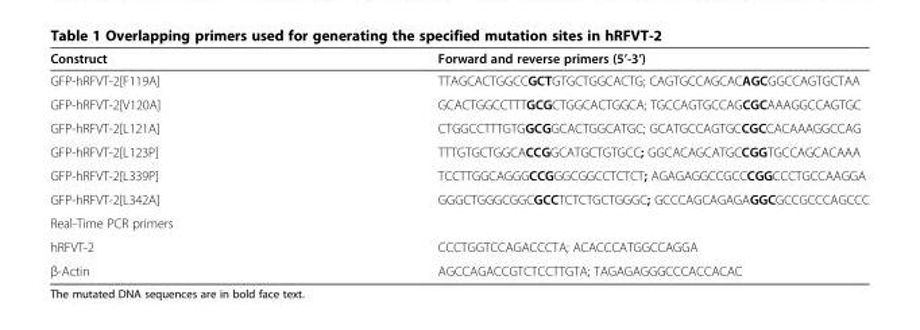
<table><thead><tr><td>Construct</td><td>Forward and reverse primers (5’-3’)</td></tr></thead><tbody><tr><td>GFP-hRFVT-2[F119A]</td><td>TTAGCACTGGCCGCTGTGCTGGCACTG; CAGTGCCAGCACAGCGGCCAGTGCTAA</td></tr><tr><td>GFP-hRFVT-2[V120A]</td><td>GCACTGGCCTTTGCGCTGGCACTGGCA; TGCCAGTGCCAGCGCAAAGGCCAGTGC</td></tr><tr><td>GFP-hRFVT-2[L121A]</td><td>CTGGCCTTTGTGGCGGCACTGGCATGC; GCATGCCAGTGCCGCCACAAAGGCCAG</td></tr><tr><td>GFP-hRFVT-2[L123P]</td><td>TTTGTGCTGGCACCGGCATGCTGTGCC; GGCACAGCATGCCGGTGCCAGCACAAA</td></tr><tr><td>GFP-hRFVT-2[L339P]</td><td>TCCTTGGCAGGGCCGGGCGGCCTCTCT; AGAGAGGCCGCCCGGCCCTGCCAAGGA</td></tr><tr><td>GFP-hRFVT-2[L342A]</td><td>GGGCTGGGCGGCGCCTCTCTGCTGGGC; GCCCAGCAGAGAGGCGCCGCCCAGCCC</td></tr><tr><td colspan="2">Real-Time PCR primers</td></tr><tr><td>hRFVT-2</td><td>CCCTGGTCCAGACCCTA; ACACCCATGGCCAGGA</td></tr><tr><td>β-Actin</td><td>AGCCAGACCGTCTCCTTGTA; TAGAGAGGGCCCACCACAC</td></tr></tbody></table>